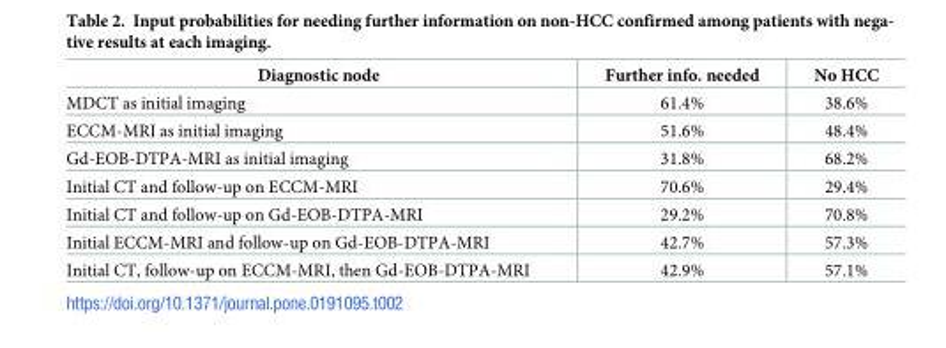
<table><thead><tr><td>Diagnostic node</td><td>Further info. needed</td><td>No HCC</td></tr></thead><tbody><tr><td>MDCT as initial imaging</td><td>61.4%</td><td>38.6%</td></tr><tr><td>ECCM-MRI as initial imaging</td><td>51.6%</td><td>48.4%</td></tr><tr><td>Gd-EOB-DTPA-MRI as initial imaging</td><td>31.8%</td><td>68.2%</td></tr><tr><td>Initial CT and follow-up on ECCM-MRI</td><td>70.6%</td><td>29.4%</td></tr><tr><td>Initial CT and follow-up on Gd-EOB-DTPA-MRI</td><td>29.2%</td><td>70.8%</td></tr><tr><td>Initial ECCM-MRI and follow-up on Gd-EOB-DTPA-MRI</td><td>42.7%</td><td>57.3%</td></tr><tr><td>Initial CT, follow-up on ECCM-MRI, then Gd-EOB-DTPA-MRI</td><td>42.9%</td><td>57.1%</td></tr></tbody></table>